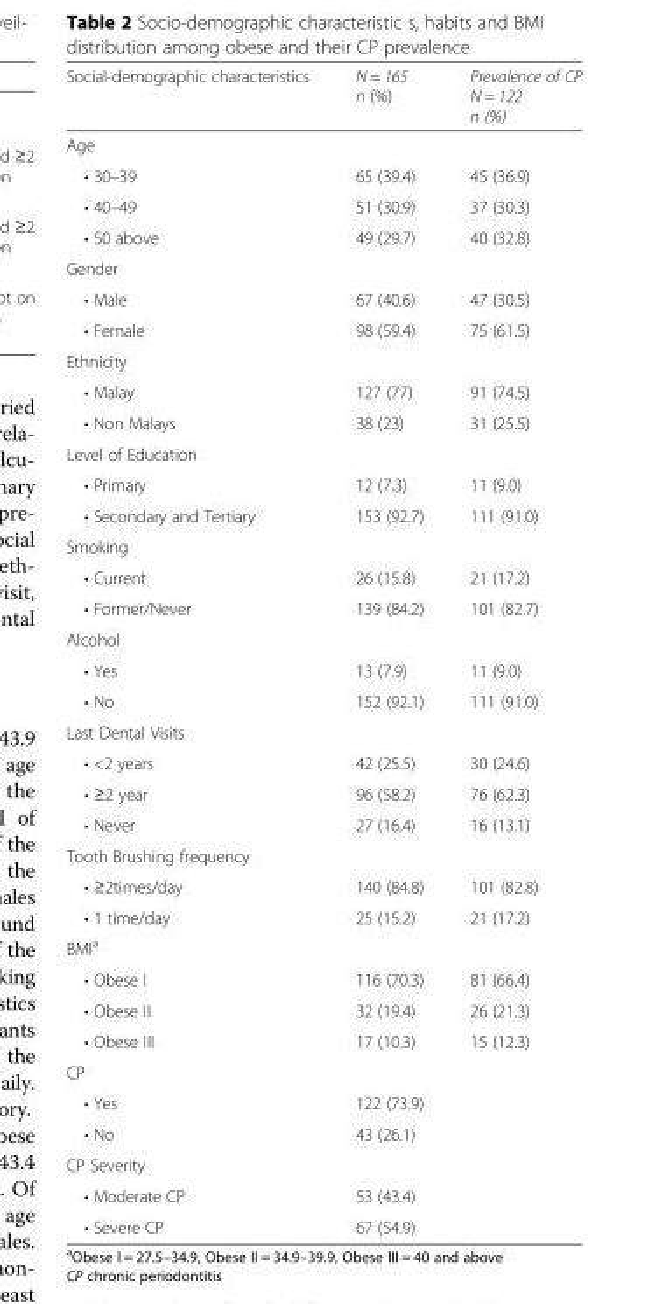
<table><thead><tr><td>Social-demographic characteristics</td><td>N = 165 n (%)</td><td>Prevalence of CP N = 122 n (%)</td></tr></thead><tbody><tr><td colspan="3">Age</td></tr><tr><td>• 30–39</td><td>65 (39.4)</td><td>45 (36.9)</td></tr><tr><td>• 40–49</td><td>51 (30.9)</td><td>37 (30.3)</td></tr><tr><td>• 50 above</td><td>49 (29.7)</td><td>40 (32.8)</td></tr><tr><td colspan="3">Gender</td></tr><tr><td>• Male</td><td>67 (40.6)</td><td>47 (30.5)</td></tr><tr><td>• Female</td><td>98 (59.4)</td><td>75 (61.5)</td></tr><tr><td colspan="3">Ethnicity</td></tr><tr><td>• Malay</td><td>127 (77)</td><td>91 (74.5)</td></tr><tr><td>• Non Malays</td><td>38 (23)</td><td>31 (25.5)</td></tr><tr><td colspan="3">Level of Education</td></tr><tr><td>• Primary</td><td>12 (7.3)</td><td>11 (9.0)</td></tr><tr><td>• Secondary and Tertiary</td><td>153 (92.7)</td><td>111 (91.0)</td></tr><tr><td colspan="3">Smoking</td></tr><tr><td>• Current</td><td>26 (15.8)</td><td>21 (17.2)</td></tr><tr><td>• Former/Never</td><td>139 (84.2)</td><td>101 (82.7)</td></tr><tr><td colspan="3">Alcohol</td></tr><tr><td>• Yes</td><td>13 (7.9)</td><td>11 (9.0)</td></tr><tr><td>• No</td><td>152 (92.1)</td><td>111 (91.0)</td></tr><tr><td colspan="3">Last Dental Visits</td></tr><tr><td>• &lt;2 years</td><td>42 (25.5)</td><td>30 (24.6)</td></tr><tr><td>• ≥2 year</td><td>96 (58.2)</td><td>76 (62.3)</td></tr><tr><td>• Never</td><td>27 (16.4)</td><td>16 (13.1)</td></tr><tr><td colspan="3">Tooth Brushing frequency</td></tr><tr><td>• ≥2times/day</td><td>140 (84.8)</td><td>101 (82.8)</td></tr><tr><td>• 1 time/day</td><td>25 (15.2)</td><td>21 (17.2)</td></tr><tr><td colspan="3">BMI<sup>a</sup></td></tr><tr><td>• Obese I</td><td>116 (70.3)</td><td>81 (66.4)</td></tr><tr><td>• Obese II</td><td>32 (19.4)</td><td>26 (21.3)</td></tr><tr><td>• Obese III</td><td>17 (10.3)</td><td>15 (12.3)</td></tr><tr><td colspan="3">CP</td></tr><tr><td>• Yes</td><td>122 (73.9)</td><td></td></tr><tr><td>• No</td><td>43 (26.1)</td><td></td></tr><tr><td colspan="3">CP Severity</td></tr><tr><td>• Moderate CP</td><td>53 (43.4)</td><td></td></tr><tr><td>• Severe CP</td><td>67 (54.9)</td><td></td></tr></tbody></table>